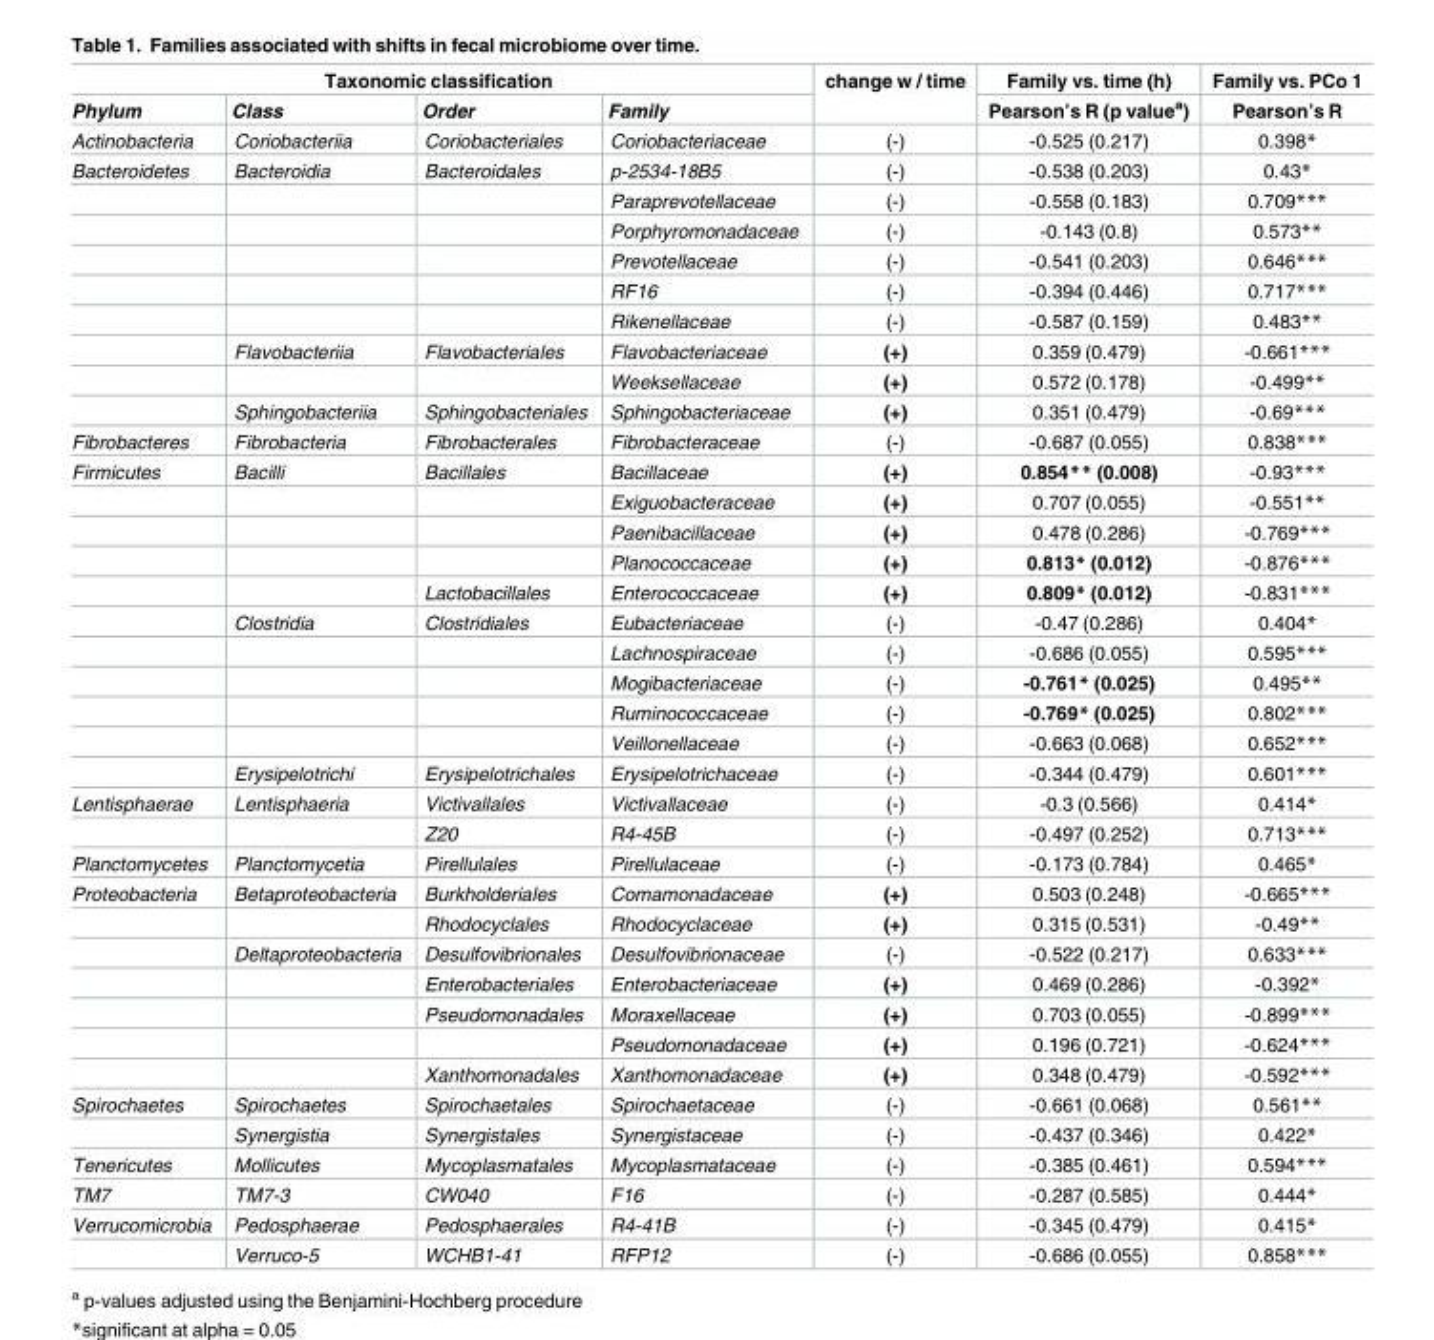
<table><thead><tr><td colspan="4">Taxonomic classification</td><td rowspan="2">change w / time</td><td rowspan="2">Family vs. time (h) Pearson’s R (p value<sup>a</sup>)</td><td rowspan="2">Family vs. PCo 1 Pearson’s R</td></tr><tr><td>Phylum</td><td>Class</td><td>Order</td><td>Family</td></tr></thead><tbody><tr><td>Actinobacteria</td><td>Coriobacteriia</td><td>Coriobacteriales</td><td>Coriobacteriaceae</td><td>(-)</td><td>-0.525 (0.217)</td><td>0.398*</td></tr><tr><td rowspan="9">Bacteroidetes</td><td>Bacteroidia</td><td>Bacteroidales</td><td>p-2534-18B5</td><td>(-)</td><td>-0.538 (0.203)</td><td>0.43*</td></tr><tr><td></td><td></td><td>Paraprevotellaceae</td><td>(-)</td><td>-0.558 (0.183)</td><td>0.709***</td></tr><tr><td></td><td></td><td>Porphyromonadaceae</td><td>(-)</td><td>-0.143 (0.8)</td><td>0.573**</td></tr><tr><td></td><td></td><td>Prevotellaceae</td><td>(-)</td><td>-0.541 (0.203)</td><td>0.646***</td></tr><tr><td></td><td></td><td>RF16</td><td>(-)</td><td>-0.394 (0.446)</td><td>0.717***</td></tr><tr><td></td><td></td><td>Rikenellaceae</td><td>(-)</td><td>-0.587 (0.159)</td><td>0.483**</td></tr><tr><td>Flavobacteriia</td><td>Flavobacteriales</td><td>Flavobacteriaceae</td><td>(+)</td><td>0.359 (0.479)</td><td>-0.661***</td></tr><tr><td></td><td></td><td>Weeksellaceae</td><td>(+)</td><td>0.572 (0.178)</td><td>-0.499**</td></tr><tr><td>Sphingobacteriia</td><td>Sphingobacteriales</td><td>Sphingobacteriaceae</td><td>(+)</td><td>0.351 (0.479)</td><td>-0.69***</td></tr><tr><td>Fibrobacteres</td><td>Fibrobacteria</td><td>Fibrobacterales</td><td>Fibrobacteraceae</td><td>(-)</td><td>-0.687 (0.055)</td><td>0.838***</td></tr><tr><td rowspan="11">Firmicutes</td><td>Bacilli</td><td>Bacillales</td><td>Bacillaceae</td><td>(+)</td><td>0.854** (0.008)</td><td>-0.93***</td></tr><tr><td></td><td></td><td>Exiguobacteraceae</td><td>(+)</td><td>0.707 (0.055)</td><td>-0.551**</td></tr><tr><td></td><td></td><td>Paenibacillaceae</td><td>(+)</td><td>0.478 (0.286)</td><td>-0.769***</td></tr><tr><td></td><td></td><td>Planococcaceae</td><td>(+)</td><td>0.813* (0.012)</td><td>-0.876***</td></tr><tr><td></td><td>Lactobacillales</td><td>Enterococcaceae</td><td>(+)</td><td>0.809* (0.012)</td><td>-0.831***</td></tr><tr><td>Clostridia</td><td>Clostridiales</td><td>Eubacteriaceae</td><td>(-)</td><td>-0.47 (0.286)</td><td>0.404*</td></tr><tr><td></td><td></td><td>Lachnospiraceae</td><td>(-)</td><td>-0.686 (0.055)</td><td>0.595***</td></tr><tr><td></td><td></td><td>Mogibacteriaceae</td><td>(-)</td><td>-0.761* (0.025)</td><td>0.495**</td></tr><tr><td></td><td></td><td>Ruminococcaceae</td><td>(-)</td><td>-0.769* (0.025)</td><td>0.802***</td></tr><tr><td></td><td></td><td>Veillonellaceae</td><td>(-)</td><td>-0.663 (0.068)</td><td>0.652***</td></tr><tr><td>Erysipelotrichi</td><td>Erysipelotrichales</td><td>Erysipelotrichaceae</td><td>(-)</td><td>-0.344 (0.479)</td><td>0.601***</td></tr><tr><td rowspan="2">Lentisphaerae</td><td>Lentisphaeria</td><td>Victivallales</td><td>Victivallaceae</td><td>(-)</td><td>-0.3 (0.566)</td><td>0.414*</td></tr><tr><td></td><td>Z20</td><td>R4-45B</td><td>(-)</td><td>-0.497 (0.252)</td><td>0.713***</td></tr><tr><td>Planctomycetes</td><td>Planctomycetia</td><td>Pirellulales</td><td>Pirellulaceae</td><td>(-)</td><td>-0.173 (0.784)</td><td>0.465*</td></tr><tr><td rowspan="7">Proteobacteria</td><td>Betaproteobacteria</td><td>Burkholderiales</td><td>Comamonadaceae</td><td>(+)</td><td>0.503 (0.248)</td><td>-0.665***</td></tr><tr><td></td><td>Rhodocyclales</td><td>Rhodocyclaceae</td><td>(+)</td><td>0.315 (0.531)</td><td>-0.49**</td></tr><tr><td>Deltaproteobacteria</td><td>Desulfovibrionales</td><td>Desulfovibrionaceae</td><td>(-)</td><td>-0.522 (0.217)</td><td>0.633***</td></tr><tr><td></td><td>Enterobacteriales</td><td>Enterobacteriaceae</td><td>(+)</td><td>0.469 (0.286)</td><td>-0.392*</td></tr><tr><td></td><td>Pseudomonadales</td><td>Moraxellaceae</td><td>(+)</td><td>0.703 (0.055)</td><td>-0.899***</td></tr><tr><td></td><td></td><td>Pseudomonadaceae</td><td>(+)</td><td>0.196 (0.721)</td><td>-0.624***</td></tr><tr><td></td><td>Xanthomonadales</td><td>Xanthomonadaceae</td><td>(+)</td><td>0.348 (0.479)</td><td>-0.592***</td></tr><tr><td rowspan="2">Spirochaetes</td><td>Spirochaetes</td><td>Spirochaetales</td><td>Spirochaetaceae</td><td>(-)</td><td>-0.661 (0.068)</td><td>0.561**</td></tr><tr><td>Synergistia</td><td>Synergistales</td><td>Synergistaceae</td><td>(-)</td><td>-0.437 (0.346)</td><td>0.422*</td></tr><tr><td>Tenericutes</td><td>Mollicutes</td><td>Mycoplasmatales</td><td>Mycoplasmataceae</td><td>(-)</td><td>-0.385 (0.461)</td><td>0.594***</td></tr><tr><td>TM7</td><td>TM7-3</td><td>CW040</td><td>F16</td><td>(-)</td><td>-0.287 (0.585)</td><td>0.444*</td></tr><tr><td rowspan="2">Verrucomicrobia</td><td>Pedosphaerae</td><td>Pedosphaerales</td><td>R4-41B</td><td>(-)</td><td>-0.345 (0.479)</td><td>0.415*</td></tr><tr><td>Verruco-5</td><td>WCHB1-41</td><td>RFP12</td><td>(-)</td><td>-0.686 (0.055)</td><td>0.858***</td></tr></tbody></table>